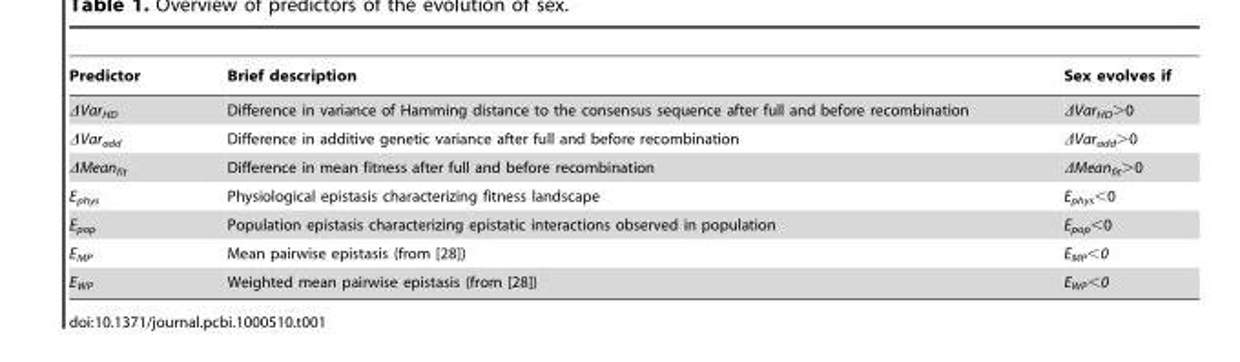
<table><thead><tr><td>Predictor</td><td>Brief description</td><td>Sex evolves if</td></tr></thead><tbody><tr><td>ΔVar<sub>HD</sub></td><td>Difference in variance of Hamming distance to the consensus sequence after full and before recombination</td><td>ΔVar<sub>HD</sub>&gt;0</td></tr><tr><td>ΔVar<sub>add</sub></td><td>Difference in additive genetic variance after full and before recombination</td><td>ΔVar<sub>add</sub>&gt;0</td></tr><tr><td>ΔMean<sub>fit</sub></td><td>Difference in mean fitness after full and before recombination</td><td>ΔMean<sub>fit</sub>&gt;0</td></tr><tr><td>E<sub>phys</sub></td><td>Physiological epistasis characterizing fitness landscape</td><td>E<sub>phys</sub>&lt;0</td></tr><tr><td>E<sub>pop</sub></td><td>Population epistasis characterizing epistatic interactions observed in population</td><td>E<sub>pop</sub>&lt;0</td></tr><tr><td>E<sub>MP</sub></td><td>Mean pairwise epistasis (from [28])</td><td>E<sub>MP</sub>&lt;0</td></tr><tr><td>E<sub>WP</sub></td><td>Weighted mean pairwise epistasis (from [28])</td><td>E<sub>WP</sub>&lt;0</td></tr></tbody></table>